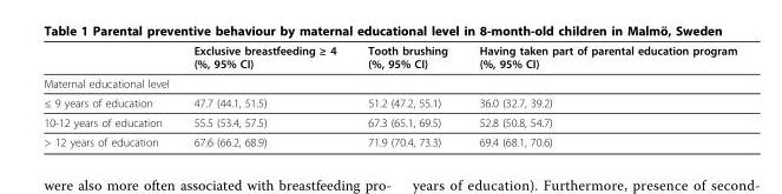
<table><thead><tr><td></td><td>Exclusive breastfeeding ≥ 4 (%, 95% CI)</td><td>Tooth brushing (%, 95% CI)</td><td>Having taken part of parental education program (%, 95% CI)</td></tr></thead><tbody><tr><td colspan="4">Maternal educational level</td></tr><tr><td>≤ 9 years of education</td><td>47.7 (44.1, 51.5)</td><td>51.2 (47.2, 55.1)</td><td>36.0 (32.7, 39.2)</td></tr><tr><td>10-12 years of education</td><td>55.5 (53.4, 57.5)</td><td>67.3 (65.1, 69.5)</td><td>52.8 (50.8, 54.7)</td></tr><tr><td>&gt; 12 years of education</td><td>67.6 (66.2, 68.9)</td><td>71.9 (70.4, 73.3)</td><td>69.4 (68.1, 70.6)</td></tr></tbody></table>